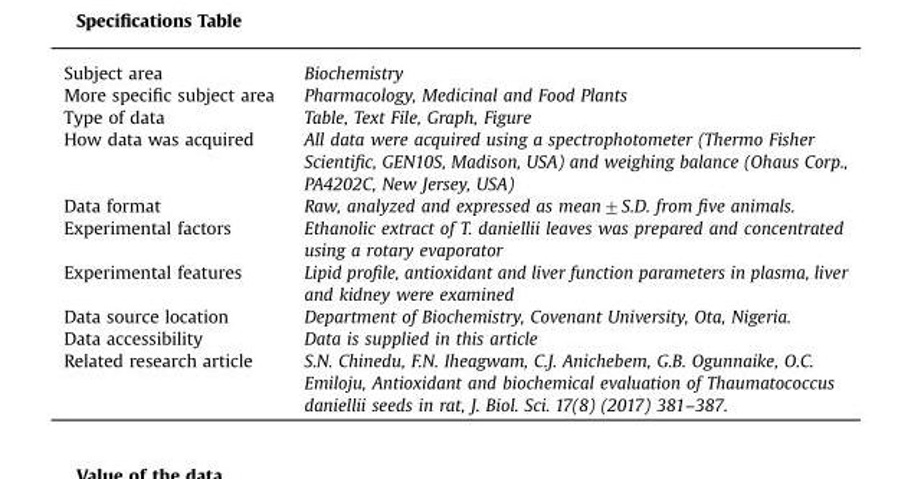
<table><tbody><tr><td>Subject area</td><td>Biochemistry</td></tr><tr><td>More specific subject area</td><td>Pharmacology, Medicinal and Food Plants</td></tr><tr><td>Type of data</td><td>Table, Text File, Graph, Figure</td></tr><tr><td>How data was acquired</td><td>All data were acquired using a spectrophotometer (Thermo Fisher Scientific, GEN10S, Madison, USA) and weighing balance (Ohaus Corp., PA4202C, New Jersey, USA)</td></tr><tr><td>Data format</td><td>Raw, analyzed and expressed as mean±S.D. from five animals.</td></tr><tr><td>Experimental factors</td><td>Ethanolic extract of T. daniellii leaves was prepared and concentrated using a rotary evaporator</td></tr><tr><td>Experimental features</td><td>Lipid profile, antioxidant and liver function parameters in plasma, liver and kidney were examined</td></tr><tr><td>Data source location</td><td>Department of Biochemistry, Covenant University, Ota, Nigeria.</td></tr><tr><td>Data accessibility</td><td>Data is supplied in this article</td></tr><tr><td>Related research article</td><td>S.N. Chinedu, F.N. Iheagwam, C.J. Anichebem, G.B. Ogunnaike, O.C. Emiloju, Antioxidant and biochemical evaluation of Thaumatococcus daniellii seeds in rat, J. Biol. Sci. 17(8) (2017) 381–387.</td></tr></tbody></table>